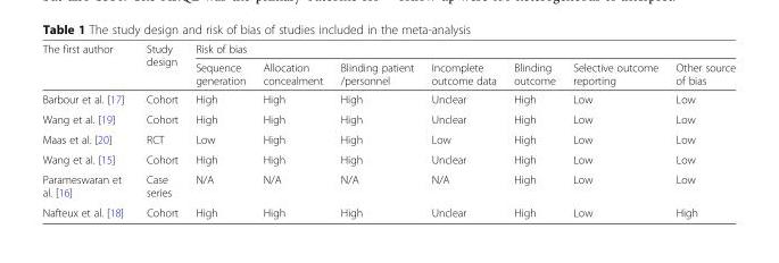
<table><thead><tr><td rowspan="2">The first author</td><td rowspan="2">Study design</td><td colspan="7">Risk of bias</td></tr><tr><td>Sequence generation</td><td>Allocation concealment</td><td>Blinding patient /personnel</td><td>Incomplete outcome data</td><td>Blinding outcome</td><td>Selective outcome reporting</td><td>Other source of bias</td></tr></thead><tbody><tr><td>Barbour et al. [17]</td><td>Cohort</td><td>High</td><td>High</td><td>High</td><td>Unclear</td><td>High</td><td>Low</td><td>Low</td></tr><tr><td>Wang et al. [19]</td><td>Cohort</td><td>High</td><td>High</td><td>High</td><td>Unclear</td><td>High</td><td>Low</td><td>Low</td></tr><tr><td>Maas et al. [20]</td><td>RCT</td><td>Low</td><td>High</td><td>High</td><td>Low</td><td>High</td><td>Low</td><td>Low</td></tr><tr><td>Wang et al. [15]</td><td>Cohort</td><td>High</td><td>High</td><td>High</td><td>Unclear</td><td>High</td><td>Low</td><td>Low</td></tr><tr><td>Parameswaran et al. [16]</td><td>Case series</td><td>N/A</td><td>N/A</td><td>N/A</td><td>N/A</td><td>High</td><td>Low</td><td>Low</td></tr><tr><td>Nafteux et al. [18]</td><td>Cohort</td><td>High</td><td>High</td><td>High</td><td>Unclear</td><td>High</td><td>Low</td><td>High</td></tr></tbody></table>